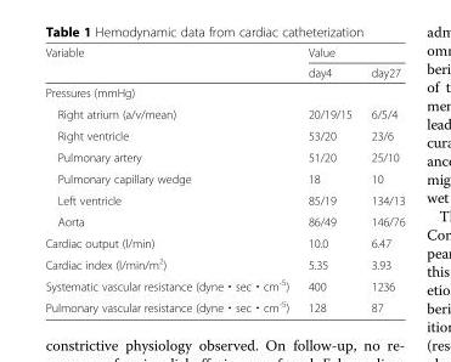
<table><thead><tr><td rowspan="2">Variable</td><td colspan="2">Value</td></tr><tr><td>day4</td><td>day27</td></tr></thead><tbody><tr><td colspan="3">Pressures (mmHg)</td></tr><tr><td>Right atrium (a/v/mean)</td><td>20/19/15</td><td>6/5/4</td></tr><tr><td>Right ventricle</td><td>53/20</td><td>23/6</td></tr><tr><td>Pulmonary artery</td><td>51/20</td><td>25/10</td></tr><tr><td>Pulmonary capillary wedge</td><td>18</td><td>10</td></tr><tr><td>Left ventricle</td><td>85/19</td><td>134/13</td></tr><tr><td>Aorta</td><td>86/49</td><td>146/76</td></tr><tr><td>Cardiac output (l/min)</td><td>10.0</td><td>6.47</td></tr><tr><td>Cardiac index (l/min/m<sup>2</sup>)</td><td>5.35</td><td>3.93</td></tr><tr><td>Systematic vascular resistance (dyne・sec・cm<sup>-5</sup>)</td><td>400</td><td>1236</td></tr><tr><td>Pulmonary vascular resistance (dyne・sec・cm<sup>-5</sup>)</td><td>128</td><td>87</td></tr></tbody></table>